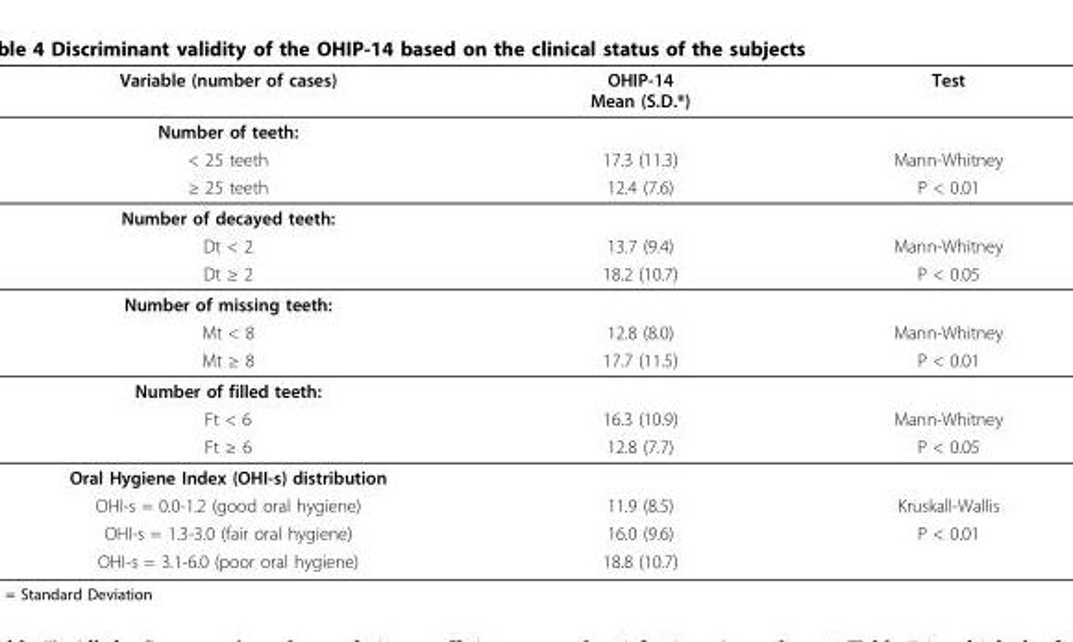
<table><thead><tr><td>Variable (number of cases)</td><td>OHIP-14 Mean (S.D.*)</td><td>Test</td></tr></thead><tbody><tr><td colspan="3">Number of teeth:</td></tr><tr><td>&lt; 25 teeth</td><td>17.3 (11.3)</td><td>Mann-Whitney</td></tr><tr><td>≥ 25 teeth</td><td>12.4 (7.6)</td><td>P &lt; 0.01</td></tr><tr><td colspan="3">Number of decayed teeth:</td></tr><tr><td>Dt &lt; 2</td><td>13.7 (9.4)</td><td>Mann-Whitney</td></tr><tr><td>Dt ≥ 2</td><td>18.2 (10.7)</td><td>P &lt; 0.05</td></tr><tr><td colspan="3">Number of missing teeth:</td></tr><tr><td>Mt &lt; 8</td><td>12.8 (8.0)</td><td>Mann-Whitney</td></tr><tr><td>Mt ≥ 8</td><td>17.7 (11.5)</td><td>P &lt; 0.01</td></tr><tr><td colspan="3">Number of filled teeth:</td></tr><tr><td>Ft &lt; 6</td><td>16.3 (10.9)</td><td>Mann-Whitney</td></tr><tr><td>Ft ≥ 6</td><td>12.8 (7.7)</td><td>P &lt; 0.05</td></tr><tr><td colspan="3">Oral Hygiene Index (OHI-s) distribution</td></tr><tr><td>OHΙ-s = 0.0-1.2 (good oral hygiene)</td><td>11.9 (8.5)</td><td>Kruskall-Wallis</td></tr><tr><td>OHΙ-s = 1.3-3.0 (fair oral hygiene)</td><td>16.0 (9.6)</td><td>P &lt; 0.01</td></tr><tr><td>OHΙ-s = 3.1-6.0 (poor oral hygiene)</td><td>18.8 (10.7)</td><td></td></tr></tbody></table>